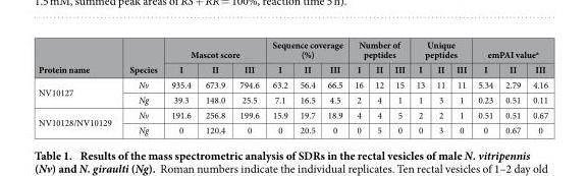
<table><thead><tr><td rowspan="2">Protein name</td><td rowspan="2">Species</td><td colspan="3">Mascot score</td><td colspan="3">Sequence coverage (%)</td><td colspan="3">Number of peptides</td><td colspan="3">Unique peptides</td><td colspan="3">emPAI value<sup>a</sup></td></tr><tr><td>I</td><td>II</td><td>III</td><td>I</td><td>II</td><td>III</td><td>I</td><td>II</td><td>III</td><td>I</td><td>II</td><td>III</td><td>I</td><td>II</td><td>III</td></tr></thead><tbody><tr><td rowspan="2">NV10127</td><td>Nv</td><td>935.4</td><td>673.9</td><td>794.6</td><td>63.2</td><td>56.4</td><td>66.5</td><td>16</td><td>12</td><td>15</td><td>13</td><td>11</td><td>11</td><td>5.34</td><td>2.79</td><td>4.16</td></tr><tr><td>Ng</td><td>39.3</td><td>148.0</td><td>25.5</td><td>7.1</td><td>16.5</td><td>4.5</td><td>2</td><td>4</td><td>1</td><td>1</td><td>3</td><td>1</td><td>0.23</td><td>0.51</td><td>0.11</td></tr><tr><td rowspan="2">NV10128/NV10129</td><td>Nv</td><td>191.6</td><td>256.8</td><td>199.6</td><td>15.9</td><td>19.7</td><td>18.9</td><td>4</td><td>4</td><td>5</td><td>2</td><td>2</td><td>1</td><td>0.51</td><td>0.51</td><td>0.67</td></tr><tr><td>Ng</td><td>0</td><td>120.4</td><td>0</td><td>0</td><td>20.5</td><td>0</td><td>0</td><td>5</td><td>0</td><td>0</td><td>3</td><td>0</td><td>0</td><td>0.67</td><td>0</td></tr></tbody></table>